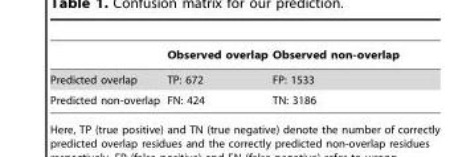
<table><thead><tr><td></td><td>Observed overlap</td><td>Observed non-overlap</td></tr></thead><tbody><tr><td>Predicted overlap</td><td>TP: 672</td><td>FP: 1533</td></tr><tr><td>Predicted non-overlap</td><td>FN: 424</td><td>TN: 3186</td></tr></tbody></table>